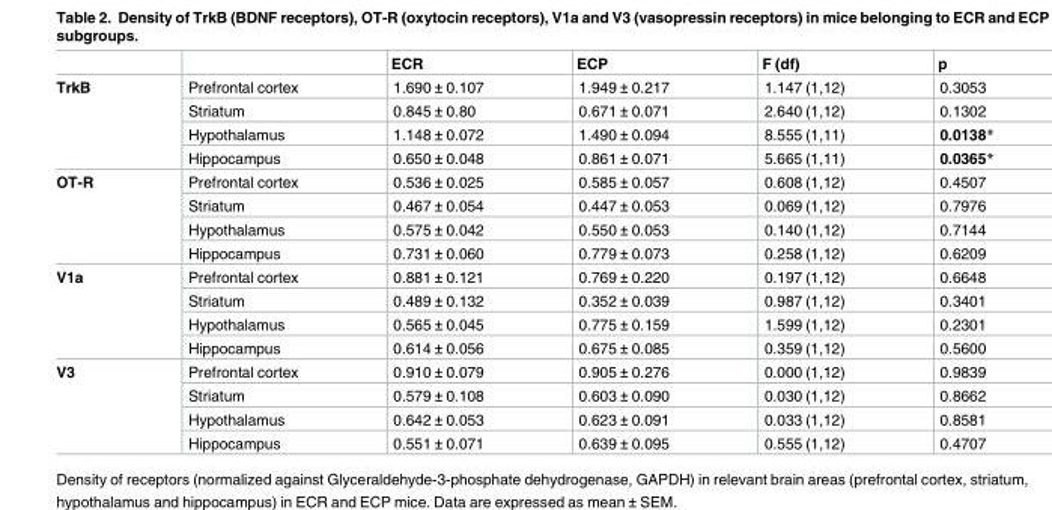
<table><thead><tr><td></td><td></td><td>ECR</td><td>ECP</td><td>F (df)</td><td>p</td></tr></thead><tbody><tr><td rowspan="4">TrkB</td><td>Prefrontal cortex</td><td>1.690 ± 0.107</td><td>1.949 ± 0.217</td><td>1.147 (1,12)</td><td>0.3053</td></tr><tr><td>Striatum</td><td>0.845 ± 0.80</td><td>0.671 ± 0.071</td><td>2.640 (1,12)</td><td>0.1302</td></tr><tr><td>Hypothalamus</td><td>1.148 ± 0.072</td><td>1.490 ± 0.094</td><td>8.555 (1,11)</td><td>0.0138*</td></tr><tr><td>Hippocampus</td><td>0.650 ± 0.048</td><td>0.861 ± 0.071</td><td>5.665 (1,11)</td><td>0.0365*</td></tr><tr><td rowspan="4">OT-R</td><td>Prefrontal cortex</td><td>0.536 ± 0.025</td><td>0.585 ± 0.057</td><td>0.608 (1,12)</td><td>0.4507</td></tr><tr><td>Striatum</td><td>0.467 ± 0.054</td><td>0.447 ± 0.053</td><td>0.069 (1,12)</td><td>0.7976</td></tr><tr><td>Hypothalamus</td><td>0.575 ± 0.042</td><td>0.550 ± 0.053</td><td>0.140 (1,12)</td><td>0.7144</td></tr><tr><td>Hippocampus</td><td>0.731 ± 0.060</td><td>0.779 ± 0.073</td><td>0.258 (1,12)</td><td>0.6209</td></tr><tr><td rowspan="4">V1a</td><td>Prefrontal cortex</td><td>0.881 ± 0.121</td><td>0.769 ± 0.220</td><td>0.197 (1,12)</td><td>0.6648</td></tr><tr><td>Striatum</td><td>0.489 ± 0.132</td><td>0.352 ± 0.039</td><td>0.987 (1,12)</td><td>0.3401</td></tr><tr><td>Hypothalamus</td><td>0.565 ± 0.045</td><td>0.775 ± 0.159</td><td>1.599 (1,12)</td><td>0.2301</td></tr><tr><td>Hippocampus</td><td>0.614 ± 0.056</td><td>0.675 ± 0.085</td><td>0.359 (1,12)</td><td>0.5600</td></tr><tr><td rowspan="4">V3</td><td>Prefrontal cortex</td><td>0.910 ± 0.079</td><td>0.905 ± 0.276</td><td>0.000 (1,12)</td><td>0.9839</td></tr><tr><td>Striatum</td><td>0.579 ± 0.108</td><td>0.603 ± 0.090</td><td>0.030 (1,12)</td><td>0.8662</td></tr><tr><td>Hypothalamus</td><td>0.642 ± 0.053</td><td>0.623 ± 0.091</td><td>0.033 (1,12)</td><td>0.8581</td></tr><tr><td>Hippocampus</td><td>0.551 ± 0.071</td><td>0.639 ± 0.095</td><td>0.555 (1,12)</td><td>0.4707</td></tr></tbody></table>